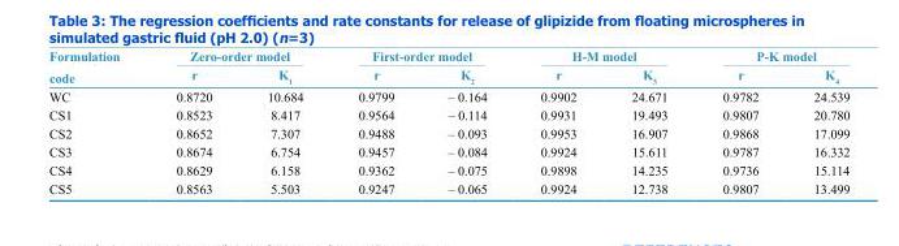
<table><thead><tr><td rowspan="2">Formulation code</td><td colspan="2">Zero-order model</td><td colspan="2">First-order model</td><td colspan="2">H-M model</td><td colspan="2">P-K model</td></tr><tr><td>r</td><td>K<sub>1</sub></td><td>r</td><td>K<sub>2</sub></td><td>r</td><td>K<sub>3</sub></td><td>r</td><td>K<sub>4</sub></td></tr></thead><tbody><tr><td>WC</td><td>0.8720</td><td>10.684</td><td>0.9799</td><td>– 0.164</td><td>0.9902</td><td>24.671</td><td>0.9782</td><td>24.539</td></tr><tr><td>CS1</td><td>0.8523</td><td>8.417</td><td>0.9564</td><td>– 0.114</td><td>0.9931</td><td>19.493</td><td>0.9807</td><td>20.780</td></tr><tr><td>CS2</td><td>0.8652</td><td>7.307</td><td>0.9488</td><td>– 0.093</td><td>0.9953</td><td>16.907</td><td>0.9868</td><td>17.099</td></tr><tr><td>CS3</td><td>0.8674</td><td>6.754</td><td>0.9457</td><td>– 0.084</td><td>0.9924</td><td>15.611</td><td>0.9787</td><td>16.332</td></tr><tr><td>CS4</td><td>0.8629</td><td>6.158</td><td>0.9362</td><td>– 0.075</td><td>0.9898</td><td>14.235</td><td>0.9736</td><td>15.114</td></tr><tr><td>CS5</td><td>0.8563</td><td>5.503</td><td>0.9247</td><td>– 0.065</td><td>0.9924</td><td>12.738</td><td>0.9807</td><td>13.499</td></tr></tbody></table>